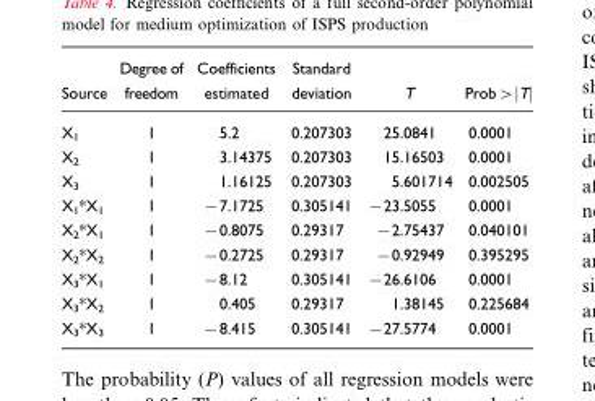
<table><thead><tr><td>Source</td><td>Degree of freedom</td><td>Coefficients estimated</td><td>Standard deviation</td><td>T</td><td>Prob&gt;∣T∣</td></tr></thead><tbody><tr><td>X<sub>1</sub></td><td>1</td><td>5.2</td><td>0.207303</td><td>25.0841</td><td>0.0001</td></tr><tr><td>X<sub>2</sub></td><td>1</td><td>3.14375</td><td>0.207303</td><td>15.16503</td><td>0.0001</td></tr><tr><td>X<sub>3</sub></td><td>1</td><td>1.16125</td><td>0.207303</td><td>5.601714</td><td>0.002505</td></tr><tr><td>X<sub>1</sub>*X<sub>1</sub></td><td>1</td><td>−7.1725</td><td>0.305141</td><td>−23.5055</td><td>0.0001</td></tr><tr><td>X<sub>2</sub>*X<sub>1</sub></td><td>1</td><td>−0.8075</td><td>0.29317</td><td>−2.75437</td><td>0.040101</td></tr><tr><td>X<sub>2</sub>*X<sub>2</sub></td><td>1</td><td>−0.2725</td><td>0.29317</td><td>−0.92949</td><td>0.395295</td></tr><tr><td>X<sub>3</sub>*X<sub>1</sub></td><td>1</td><td>−8.12</td><td>0.305141</td><td>−26.6106</td><td>0.0001</td></tr><tr><td>X<sub>3</sub>*X<sub>2</sub></td><td>1</td><td>0.405</td><td>0.29317</td><td>1.38145</td><td>0.225684</td></tr><tr><td>X<sub>3</sub>*X<sub>3</sub></td><td>1</td><td>−8.415</td><td>0.305141</td><td>−27.5774</td><td>0.0001</td></tr></tbody></table>